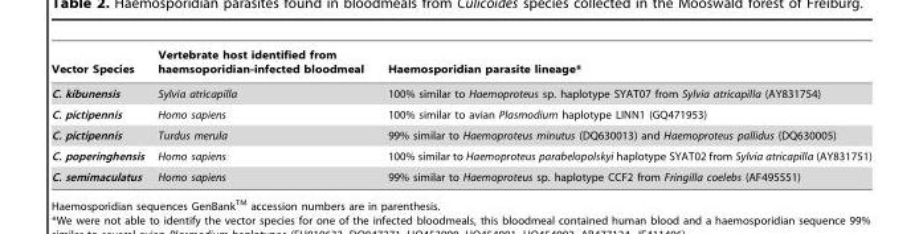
<table><thead><tr><td>Vector Species</td><td>Vertebrate host identified from haemsoporidian-infected bloodmeal</td><td>Haemosporidian parasite lineage*</td></tr></thead><tbody><tr><td>C. kibunensis</td><td>Sylvia atricapilla</td><td>100% similar to Haemoproteus sp. haplotype SYAT07 from Sylvia atricapilla (AY831754)</td></tr><tr><td>C. pictipennis</td><td>Homo sapiens</td><td>100% similar to avian Plasmodium haplotype LINN1 (GQ471953)</td></tr><tr><td>C. pictipennis</td><td>Turdus merula</td><td>99% similar to Haemoproteus minutus (DQ630013) and Haemoproteus pallidus (DQ630005)</td></tr><tr><td>C. poperinghensis</td><td>Homo sapiens</td><td>100% similar to Haemoproteus parabelopolskyi haplotype SYAT02 from Sylvia atricapilla (AY831751)</td></tr><tr><td>C. semimaculatus</td><td>Homo sapiens</td><td>99% similar to Haemoproteus sp. haplotype CCF2 from Fringilla coelebs (AF495551)</td></tr></tbody></table>